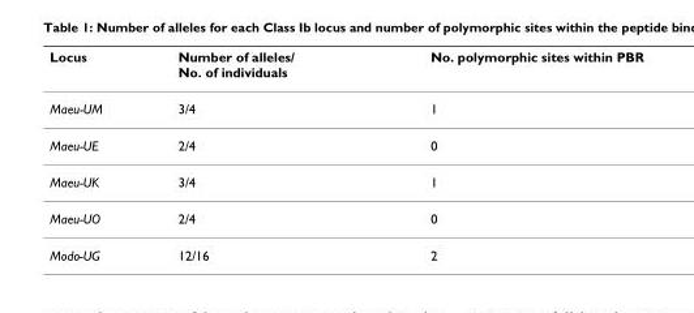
<table><thead><tr><td>Locus</td><td>Number of alleles/ No. of individuals</td><td>No. polymorphic sites within PBR</td></tr></thead><tbody><tr><td>Maeu-UM</td><td>3/4</td><td>1</td></tr><tr><td>Maeu-UE</td><td>2/4</td><td>0</td></tr><tr><td>Maeu-UK</td><td>3/4</td><td>1</td></tr><tr><td>Maeu-UO</td><td>2/4</td><td>0</td></tr><tr><td>Modo-UG</td><td>12/16</td><td>2</td></tr></tbody></table>